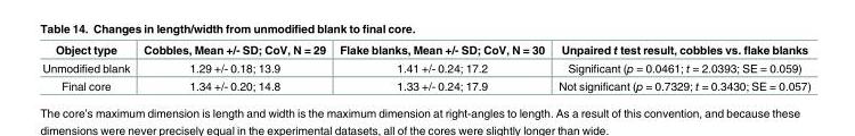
<table><thead><tr><td>Object type</td><td>Cobbles, Mean +/- SD; CoV, N = 29</td><td>Flake blanks, Mean +/- SD; CoV, N = 30</td><td>Unpaired t test result, cobbles vs. flake blanks</td></tr></thead><tbody><tr><td>Unmodified blank</td><td>1.29 +/- 0.18; 13.9</td><td>1.41 +/- 0.24; 17.2</td><td>Significant (p = 0.0461; t = 2.0393; SE = 0.059)</td></tr><tr><td>Final core</td><td>1.34 +/- 0.20; 14.8</td><td>1.33 +/- 0.24; 17.9</td><td>Not significant (p = 0.7329; t = 0.3430; SE = 0.057)</td></tr></tbody></table>